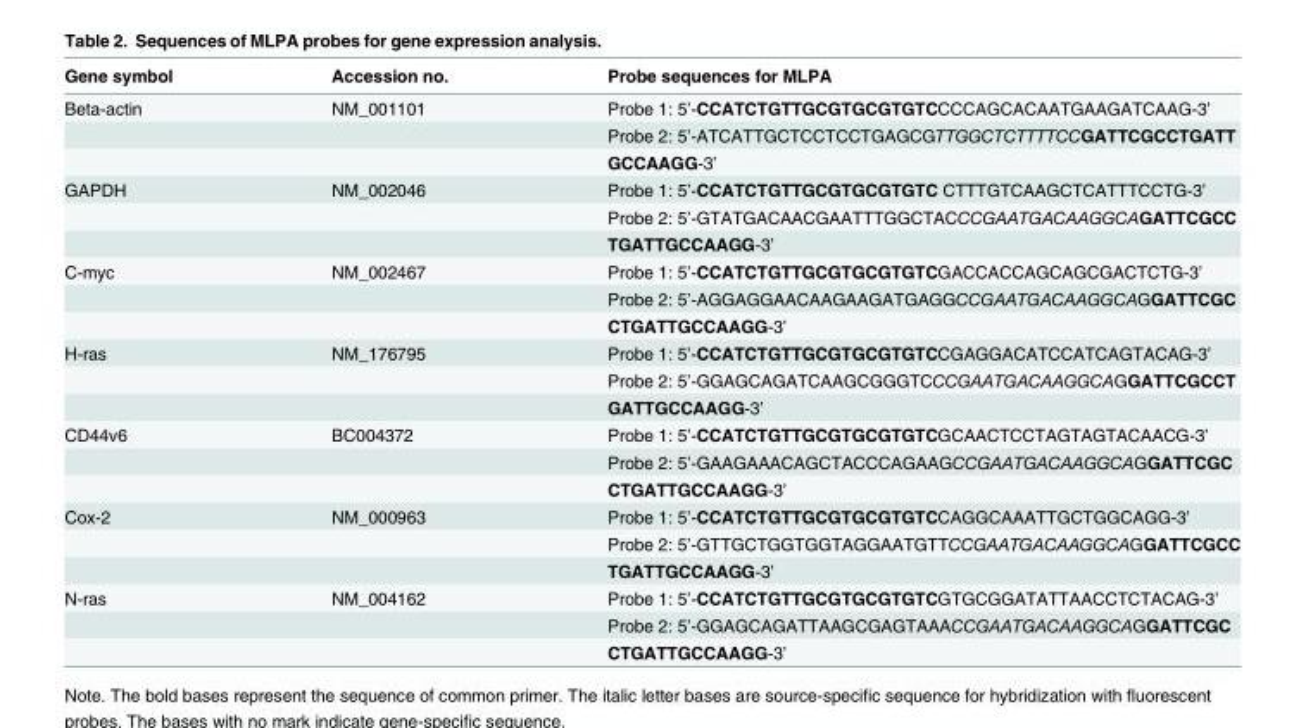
<table><thead><tr><td>Gene symbol</td><td>Accession no.</td><td>Probe sequences for MLPA</td></tr></thead><tbody><tr><td rowspan="3">Beta-actin</td><td>NM_001101</td><td>Probe 1: 5’-CCATCTGTTGCGTGCGTGTCCCCAGCACAATGAAGATCAAG-3’</td></tr><tr><td></td><td>Probe 2: 5’-ATCATTGCTCCTCCTGAGCGTTGGCTCTTTTCCGATTCGCCTGATT</td></tr><tr><td></td><td>GCCAAGG-3’</td></tr><tr><td rowspan="3">GAPDH</td><td>NM_002046</td><td>Probe 1: 5’-CCATCTGTTGCGTGCGTGTC CTTTGTCAAGCTCATTTCCTG-3’</td></tr><tr><td></td><td>Probe 2: 5’-GTATGACAACGAATTTGGCTACCCGAATGACAAGGCAGATTCGCC</td></tr><tr><td></td><td>TGATTGCCAAGG-3’</td></tr><tr><td rowspan="3">C-myc</td><td>NM_002467</td><td>Probe 1: 5’-CCATCTGTTGCGTGCGTGTCGACCACCAGCAGCGACTCTG-3’</td></tr><tr><td></td><td>Probe 2: 5’-AGGAGGAACAAGAAGATGAGGCCGAATGACAAGGCAGGATTCGC</td></tr><tr><td></td><td>CTGATTGCCAAGG-3’</td></tr><tr><td rowspan="3">H-ras</td><td>NM_176795</td><td>Probe 1: 5’-CCATCTGTTGCGTGCGTGTCCGAGGACATCCATCAGTACAG-3’</td></tr><tr><td></td><td>Probe 2: 5’-GGAGCAGATCAAGCGGGTCCCGAATGACAAGGCAGGATTCGCCT</td></tr><tr><td></td><td>GATTGCCAAGG-3’</td></tr><tr><td rowspan="3">CD44v6</td><td>BC004372</td><td>Probe 1: 5’-CCATCTGTTGCGTGCGTGTCGCAACTCCTAGTAGTACAACG-3’</td></tr><tr><td></td><td>Probe 2: 5’-GAAGAAACAGCTACCCAGAAGCCGAATGACAAGGCAGGATTCGC</td></tr><tr><td></td><td>CTGATTGCCAAGG-3’</td></tr><tr><td rowspan="3">Cox-2</td><td>NM_000963</td><td>Probe 1: 5’-CCATCTGTTGCGTGCGTGTCCAGGCAAATTGCTGGCAGG-3’</td></tr><tr><td></td><td>Probe 2: 5’-GTTGCTGGTGGTAGGAATGTTCCGAATGACAAGGCAGGATTCGCC</td></tr><tr><td></td><td>TGATTGCCAAGG-3’</td></tr><tr><td rowspan="3">N-ras</td><td>NM_004162</td><td>Probe 1: 5’-CCATCTGTTGCGTGCGTGTCGTGCGGATATTAACCTCTACAG-3’</td></tr><tr><td></td><td>Probe 2: 5’-GGAGCAGATTAAGCGAGTAAACCGAATGACAAGGCAGGATTCGC</td></tr><tr><td></td><td>CTGATTGCCAAGG-3’</td></tr></tbody></table>